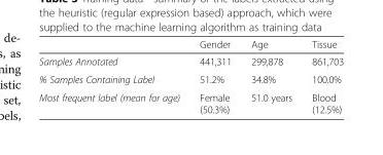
<table><thead><tr><td></td><td>Gender</td><td>Age</td><td>Tissue</td></tr></thead><tbody><tr><td>Samples Annotated</td><td>441,311</td><td>299,878</td><td>861,703</td></tr><tr><td>% Samples Containing Label</td><td>51.2%</td><td>34.8%</td><td>100.0%</td></tr><tr><td>Most frequent label (mean for age)</td><td>Female (50.3%)</td><td>51.0 years</td><td>Blood (12.5%)</td></tr></tbody></table>